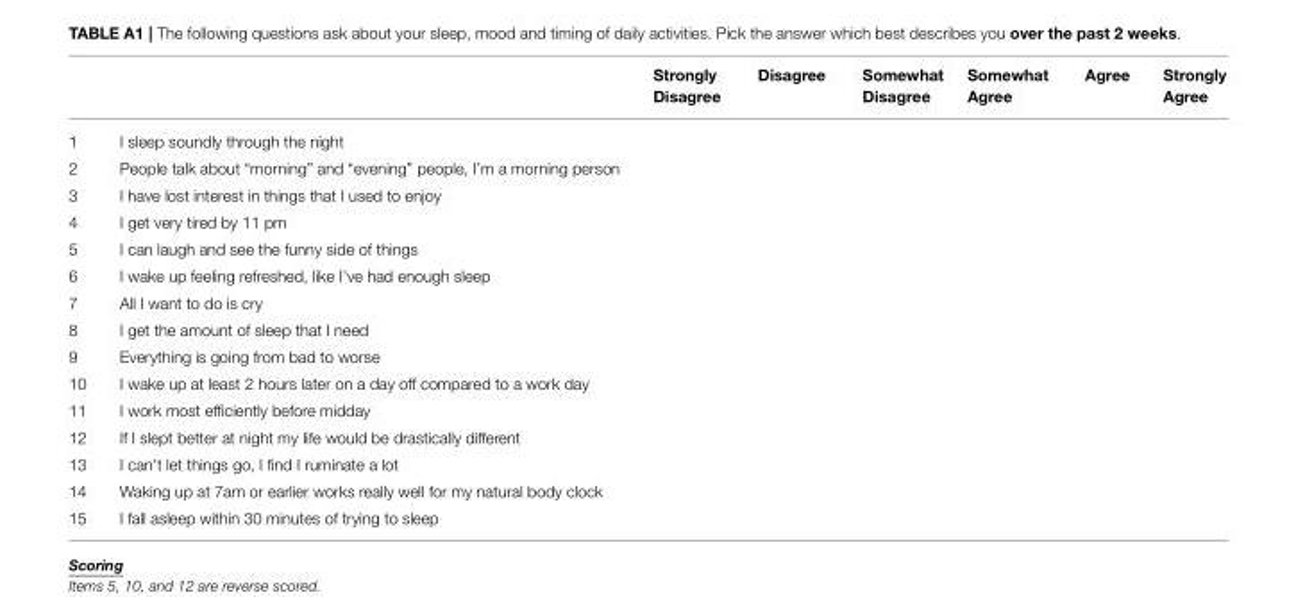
<table><thead><tr><td></td><td></td><td>Strongly Disagree</td><td>Disagree</td><td>Somewhat Disagree</td><td>Somewhat Agree</td><td>Agree</td><td>Strongly Agree</td></tr></thead><tbody><tr><td>1</td><td>I sleep soundly through the night</td><td></td><td></td><td></td><td></td><td></td><td></td></tr><tr><td>2</td><td>People talk about “morning” and “evening” people, I’m a morning person</td><td></td><td></td><td></td><td></td><td></td><td></td></tr><tr><td>3</td><td>I have lost interest in things that I used to enjoy</td><td></td><td></td><td></td><td></td><td></td><td></td></tr><tr><td>4</td><td>I get very tired by 11 pm</td><td></td><td></td><td></td><td></td><td></td><td></td></tr><tr><td>5</td><td>I can laugh and see the funny side of things</td><td></td><td></td><td></td><td></td><td></td><td></td></tr><tr><td>6</td><td>I wake up feeling refreshed, like I’ve had enough sleep</td><td></td><td></td><td></td><td></td><td></td><td></td></tr><tr><td>7</td><td>All I want to do is cry</td><td></td><td></td><td></td><td></td><td></td><td></td></tr><tr><td>8</td><td>I get the amount of sleep that I need</td><td></td><td></td><td></td><td></td><td></td><td></td></tr><tr><td>9</td><td>Everything is going from bad to worse</td><td></td><td></td><td></td><td></td><td></td><td></td></tr><tr><td>10</td><td>I wake up at least 2 hours later on a day off compared to a work day</td><td></td><td></td><td></td><td></td><td></td><td></td></tr><tr><td>11</td><td>I work most efficiently before midday</td><td></td><td></td><td></td><td></td><td></td><td></td></tr><tr><td>12</td><td>If I slept better at night my life would be drastically different</td><td></td><td></td><td></td><td></td><td></td><td></td></tr><tr><td>13</td><td>I can’t let things go, I find I ruminate a lot</td><td></td><td></td><td></td><td></td><td></td><td></td></tr><tr><td>14</td><td>Waking up at 7am or earlier works really well for my natural body clock</td><td></td><td></td><td></td><td></td><td></td><td></td></tr><tr><td>15</td><td>I fall asleep within 30 minutes of trying to sleep</td><td></td><td></td><td></td><td></td><td></td><td></td></tr></tbody></table>